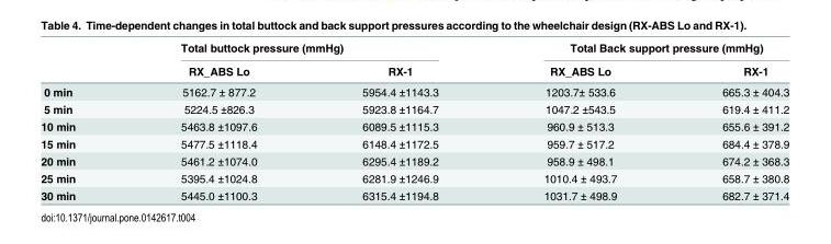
<table><thead><tr><td rowspan="2"></td><td colspan="2">Total buttock pressure (mmHg)</td><td colspan="2">Total Back support pressure (mmHg)</td></tr><tr><td>RX_ABS Lo</td><td>RX-1</td><td>RX_ABS Lo</td><td>RX-1</td></tr></thead><tbody><tr><td>0 min</td><td>5162.7 ± 877.2</td><td>5954.4 ±1143.3</td><td>1203.7± 533.6</td><td>665.3 ± 404.3</td></tr><tr><td>5 min</td><td>5224.5 ±826.3</td><td>5923.8 ±1164.7</td><td>1047.2 ±543.5</td><td>619.4 ± 411.2</td></tr><tr><td>10 min</td><td>5463.8 ±1097.6</td><td>6089.5 ±1115.3</td><td>960.9 ± 513.3</td><td>655.6 ± 391.2</td></tr><tr><td>15 min</td><td>5477.5 ±1118.4</td><td>6148.4 ±1172.5</td><td>959.7 ± 517.2</td><td>684.4 ± 378.9</td></tr><tr><td>20 min</td><td>5461.2 ±1074.0</td><td>6295.4 ±1189.2</td><td>958.9 ± 498.1</td><td>674.2 ± 368.3</td></tr><tr><td>25 min</td><td>5395.4 ±1024.8</td><td>6281.9 ±1246.9</td><td>1010.4 ± 493.7</td><td>658.7 ± 380.8</td></tr><tr><td>30 min</td><td>5445.0 ±1100.3</td><td>6315.4 ±1194.8</td><td>1031.7 ± 498.9</td><td>682.7 ± 371.4</td></tr></tbody></table>